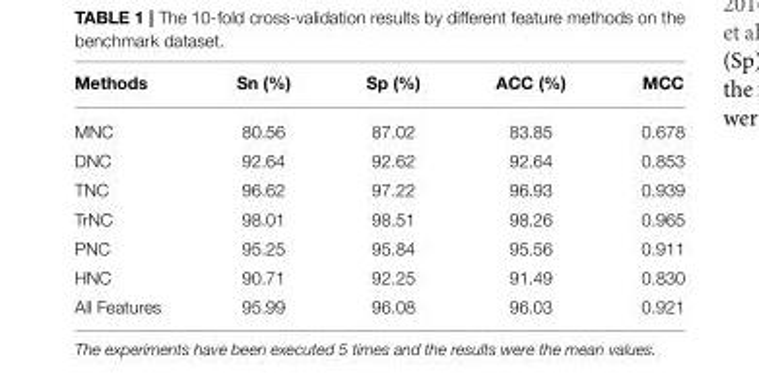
<table><thead><tr><td>Methods</td><td>Sn (%)</td><td>Sp (%)</td><td>ACC (%)</td><td>MCC</td></tr></thead><tbody><tr><td>MNC</td><td>80.56</td><td>87.02</td><td>83.85</td><td>0.678</td></tr><tr><td>DNC</td><td>92.64</td><td>92.62</td><td>92.64</td><td>0.853</td></tr><tr><td>TNC</td><td>96.62</td><td>97.22</td><td>96.93</td><td>0.939</td></tr><tr><td>TrNC</td><td>98.01</td><td>98.51</td><td>98.26</td><td>0.965</td></tr><tr><td>PNC</td><td>95.25</td><td>95.84</td><td>95.56</td><td>0.911</td></tr><tr><td>HNC</td><td>90.71</td><td>92.25</td><td>91.49</td><td>0.830</td></tr><tr><td>All Features</td><td>95.99</td><td>96.08</td><td>96.03</td><td>0.921</td></tr></tbody></table>